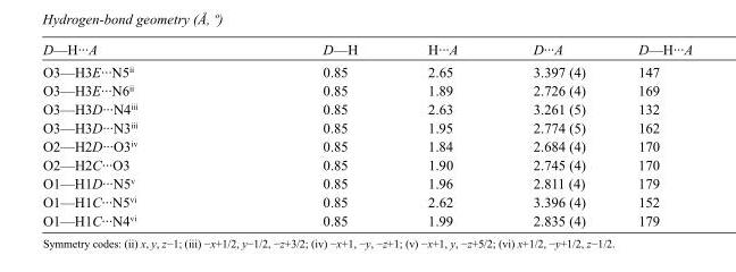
<table><tbody><tr><td>D—H···A</td><td>D—H</td><td>H···A</td><td>D···A</td><td>D—H···A</td></tr><tr><td>O3—H3E···N5<sup>ii</sup></td><td>0.85</td><td>2.65</td><td>3.397 (4)</td><td>147</td></tr><tr><td>O3—H3E···N6<sup>ii</sup></td><td>0.85</td><td>1.89</td><td>2.726 (4)</td><td>169</td></tr><tr><td>O3—H3D···N4<sup>iii</sup></td><td>0.85</td><td>2.63</td><td>3.261 (5)</td><td>132</td></tr><tr><td>O3—H3D···N3<sup>iii</sup></td><td>0.85</td><td>1.95</td><td>2.774 (5)</td><td>162</td></tr><tr><td>O2—H2D···O3<sup>iv</sup></td><td>0.85</td><td>1.84</td><td>2.684 (4)</td><td>170</td></tr><tr><td>O2—H2C···O3</td><td>0.85</td><td>1.90</td><td>2.745 (4)</td><td>170</td></tr><tr><td>O1—H1D···N5<sup>v</sup></td><td>0.85</td><td>1.96</td><td>2.811 (4)</td><td>179</td></tr><tr><td>O1—H1C···N5<sup>vi</sup></td><td>0.85</td><td>2.62</td><td>3.396 (4)</td><td>152</td></tr><tr><td>O1—H1C···N4<sup>vi</sup></td><td>0.85</td><td>1.99</td><td>2.835 (4)</td><td>179</td></tr></tbody></table>